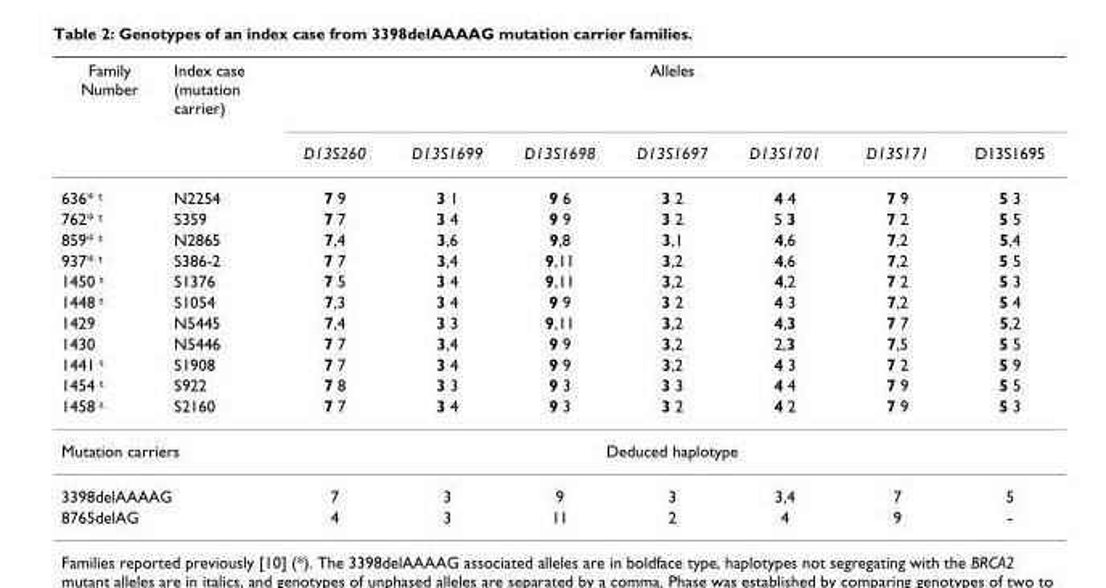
<table><thead><tr><td rowspan="2">Family Number</td><td rowspan="2">Index case (mutation carrier)</td><td colspan="7">Alleles</td></tr><tr><td>D13S260</td><td>D13S1699</td><td>D13S1698</td><td>D13S1697</td><td>D13S1701</td><td>D13S171</td><td>D13S1695</td></tr></thead><tbody><tr><td>636* <sup>t</sup></td><td>N2254</td><td>7 9</td><td>3 1</td><td>9 6</td><td>3 2</td><td>4 4</td><td>7 9</td><td>5 3</td></tr><tr><td>762* <sup>t</sup></td><td>S359</td><td>7 7</td><td>3 4</td><td>9 9</td><td>3 2</td><td>5 3</td><td>7 2</td><td>5 5</td></tr><tr><td>859* <sup>t</sup></td><td>N2865</td><td>7,4</td><td>3,6</td><td>9,8</td><td>3,1</td><td>4,6</td><td>7,2</td><td>5,4</td></tr><tr><td>937* <sup>t</sup></td><td>S386-2</td><td>7 7</td><td>3,4</td><td>9,11</td><td>3,2</td><td>4,6</td><td>7,2</td><td>5 5</td></tr><tr><td>1450 <sup>t</sup></td><td>S1376</td><td>7 5</td><td>3 4</td><td>9,11</td><td>3,2</td><td>4,2</td><td>7 2</td><td>5 3</td></tr><tr><td>1448 <sup>t</sup></td><td>S1054</td><td>7,3</td><td>3 4</td><td>9 9</td><td>3 2</td><td>4 3</td><td>7,2</td><td>5 4</td></tr><tr><td>1429</td><td>N5445</td><td>7,4</td><td>3 3</td><td>9,11</td><td>3,2</td><td>4,3</td><td>7 7</td><td>5,2</td></tr><tr><td>1430</td><td>N5446</td><td>7 7</td><td>3,4</td><td>9 9</td><td>3,2</td><td>2,3</td><td>7,5</td><td>5 5</td></tr><tr><td>1441 <sup>t</sup></td><td>S1908</td><td>7 7</td><td>3 4</td><td>9 9</td><td>3,2</td><td>4 3</td><td>7 2</td><td>5 9</td></tr><tr><td>1454 <sup>t</sup></td><td>S922</td><td>7 8</td><td>3 3</td><td>9 3</td><td>3 3</td><td>4 4</td><td>7 9</td><td>5 5</td></tr><tr><td>1458 <sup>t</sup></td><td>S2160</td><td>7 7</td><td>3 4</td><td>9 3</td><td>3 2</td><td>4 2</td><td>7 9</td><td>5 3</td></tr><tr><td colspan="2">Mutation carriers</td><td colspan="7">Deduced haplotype</td></tr><tr><td colspan="2">3398delAAAAG</td><td>7</td><td>3</td><td>9</td><td>3</td><td>3,4</td><td>7</td><td>5</td></tr><tr><td colspan="2">8765delAG</td><td>4</td><td>3</td><td>11</td><td>2</td><td>4</td><td>9</td><td>-</td></tr></tbody></table>